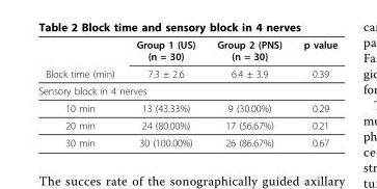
<table><thead><tr><td rowspan="2">Block time (min)</td><td rowspan="2">Group 1 (US) (n = 30) 7.3 ± 2.6</td><td rowspan="2">Group 2 (PNS) (n = 30) 6.4 ± 3.9</td><td rowspan="2">p value 0.39</td></tr><tr></tr></thead><tbody><tr><td colspan="4">Sensory block in 4 nerves</td></tr><tr><td>10 min</td><td>13 (43.33%)</td><td>9 (30.00%)</td><td>0.29</td></tr><tr><td>20 min</td><td>24 (80.00%)</td><td>17 (56.67%)</td><td>0.21</td></tr><tr><td>30 min</td><td>30 (100.00%)</td><td>26 (86.67%)</td><td>0.67</td></tr></tbody></table>